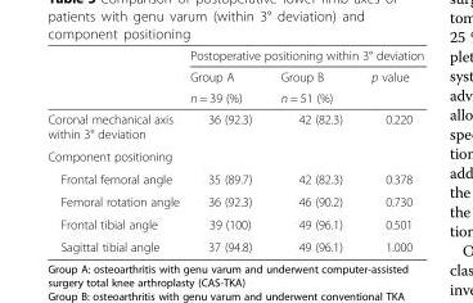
<table><thead><tr><td rowspan="3"></td><td colspan="3">Postoperative positioning within 3° deviation</td></tr><tr><td rowspan="2">Group A n = 39 (%)</td><td rowspan="2">Group B n = 51 (%)</td><td rowspan="2">p value</td></tr><tr></tr></thead><tbody><tr><td>Coronal mechanical axis within 3° deviation</td><td>36 (92.3)</td><td>42 (82.3)</td><td>0.220</td></tr><tr><td colspan="4">Component positioning</td></tr><tr><td>Frontal femoral angle</td><td>35 (89.7)</td><td>42 (82.3)</td><td>0.378</td></tr><tr><td>Femoral rotation angle</td><td>36 (92.3)</td><td>46 (90.2)</td><td>0.730</td></tr><tr><td>Frontal tibial angle</td><td>39 (100)</td><td>49 (96.1)</td><td>0.501</td></tr><tr><td>Sagittal tibial angle</td><td>37 (94.8)</td><td>49 (96.1)</td><td>1.000</td></tr></tbody></table>